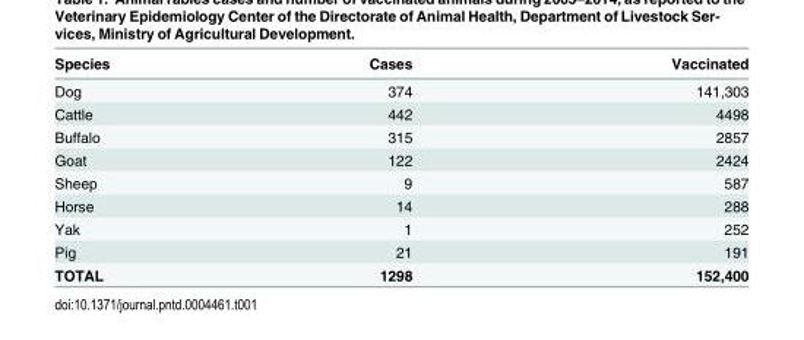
<table><thead><tr><td>Species</td><td>Cases</td><td>Vaccinated</td></tr></thead><tbody><tr><td>Dog</td><td>374</td><td>141,303</td></tr><tr><td>Cattle</td><td>442</td><td>4498</td></tr><tr><td>Buffalo</td><td>315</td><td>2857</td></tr><tr><td>Goat</td><td>122</td><td>2424</td></tr><tr><td>Sheep</td><td>9</td><td>587</td></tr><tr><td>Horse</td><td>14</td><td>288</td></tr><tr><td>Yak</td><td>1</td><td>252</td></tr><tr><td>Pig</td><td>21</td><td>191</td></tr><tr><td>TOTAL</td><td>1298</td><td>152,400</td></tr></tbody></table>